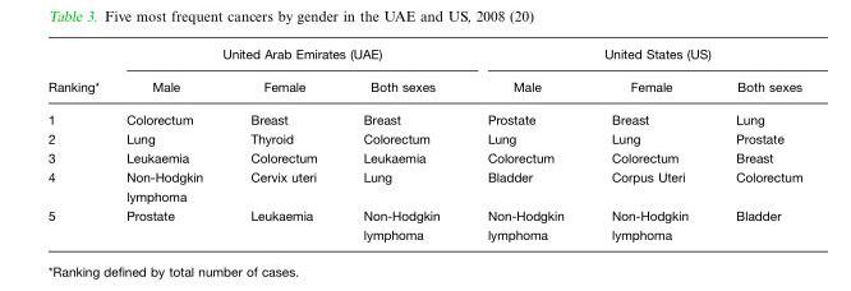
<table><thead><tr><td rowspan="2">Ranking*</td><td colspan="3">United Arab Emirates (UAE)</td><td colspan="3">United States (US)</td></tr><tr><td>Male</td><td>Female</td><td>Both sexes</td><td>Male</td><td>Female</td><td>Both sexes</td></tr></thead><tbody><tr><td>1</td><td>Colorectum</td><td>Breast</td><td>Breast</td><td>Prostate</td><td>Breast</td><td>Lung</td></tr><tr><td>2</td><td>Lung</td><td>Thyroid</td><td>Colorectum</td><td>Lung</td><td>Lung</td><td>Prostate</td></tr><tr><td>3</td><td>Leukaemia</td><td>Colorectum</td><td>Leukaemia</td><td>Colorectum</td><td>Colorectum</td><td>Breast</td></tr><tr><td>4</td><td>Non-Hodgkin lymphoma</td><td>Cervix uteri</td><td>Lung</td><td>Bladder</td><td>Corpus Uteri</td><td>Colorectum</td></tr><tr><td>5</td><td>Prostate</td><td>Leukaemia</td><td>Non-Hodgkin lymphoma</td><td>Non-Hodgkin lymphoma</td><td>Non-Hodgkin lymphoma</td><td>Bladder</td></tr></tbody></table>